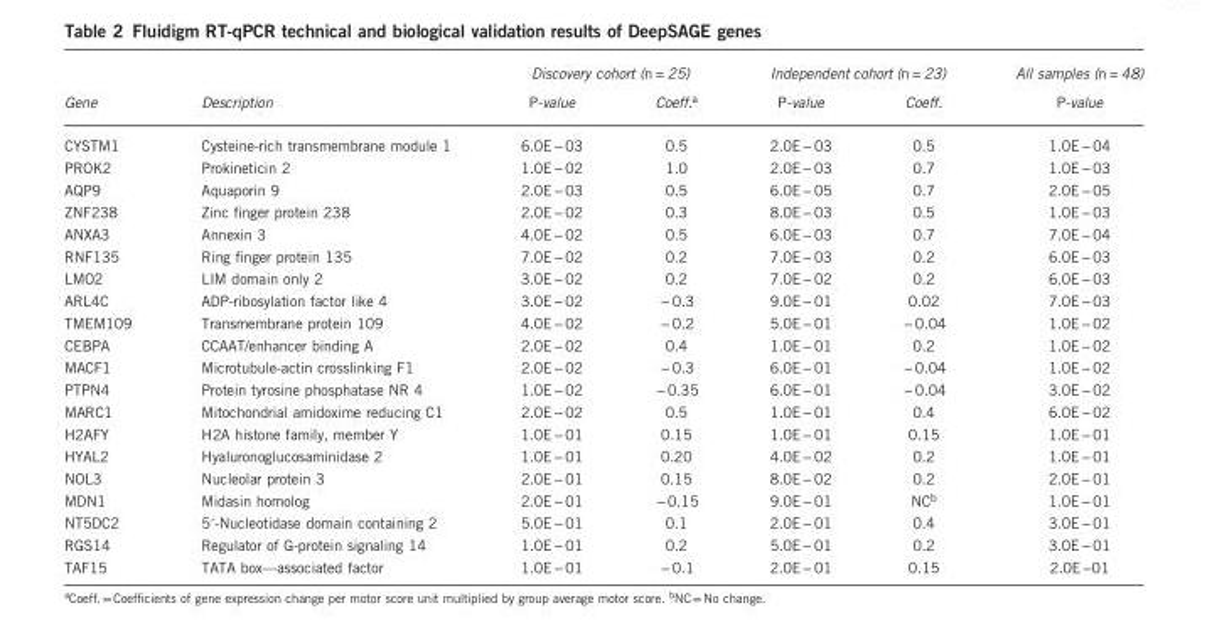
<table><thead><tr><td rowspan="2">Gene</td><td rowspan="2">Description</td><td colspan="2">Discovery cohort (n = 25)</td><td colspan="2">Independent cohort (n = 23)</td><td rowspan="2">All samples (n = 48) P-value</td></tr><tr><td>P-value</td><td>Coeff.<sup>a</sup></td><td>P-value</td><td>Coeff.</td></tr></thead><tbody><tr><td>CYSTM1</td><td>Cysteine-rich transmembrane module 1</td><td>6.0E− 03</td><td>0.5</td><td>2.0E− 03</td><td>0.5</td><td>1.0E− 04</td></tr><tr><td>PROK2</td><td>Prokineticin 2</td><td>1.0E− 02</td><td>1.0</td><td>2.0E− 03</td><td>0.7</td><td>1.0E− 03</td></tr><tr><td>AQP9</td><td>Aquaporin 9</td><td>2.0E− 03</td><td>0.5</td><td>6.0E− 05</td><td>0.7</td><td>2.0E− 05</td></tr><tr><td>ZNF238</td><td>Zinc finger protein 238</td><td>2.0E− 02</td><td>0.3</td><td>8.0E− 03</td><td>0.5</td><td>1.0E− 03</td></tr><tr><td>ANXA3</td><td>Annexin 3</td><td>4.0E− 02</td><td>0.5</td><td>6.0E− 03</td><td>0.7</td><td>7.0E− 04</td></tr><tr><td>RNF135</td><td>Ring finger protein 135</td><td>7.0E− 02</td><td>0.2</td><td>7.0E− 03</td><td>0.2</td><td>6.0E− 03</td></tr><tr><td>LMO2</td><td>LIM domain only 2</td><td>3.0E− 02</td><td>0.2</td><td>7.0E− 02</td><td>0.2</td><td>6.0E− 03</td></tr><tr><td>ARL4C</td><td>ADP-ribosylation factor like 4</td><td>3.0E− 02</td><td>− 0.3</td><td>9.0E− 01</td><td>0.02</td><td>7.0E− 03</td></tr><tr><td>TMEM109</td><td>Transmembrane protein 109</td><td>4.0E− 02</td><td>− 0.2</td><td>5.0E− 01</td><td>− 0.04</td><td>1.0E− 02</td></tr><tr><td>CEBPA</td><td>CCAAT/enhancer binding A</td><td>2.0E− 02</td><td>0.4</td><td>1.0E− 01</td><td>0.2</td><td>1.0E− 02</td></tr><tr><td>MACF1</td><td>Microtubule-actin crosslinking F1</td><td>2.0E− 02</td><td>− 0.3</td><td>6.0E− 01</td><td>− 0.04</td><td>1.0E− 02</td></tr><tr><td>PTPN4</td><td>Protein tyrosine phosphatase NR 4</td><td>1.0E − 02</td><td>− 0.35</td><td>6.0E− 01</td><td>− 0.04</td><td>3.0E− 02</td></tr><tr><td>MARC1</td><td>Mitochondrial amidoxime reducing C1</td><td>2.0E− 02</td><td>0.5</td><td>1.0E− 01</td><td>0.4</td><td>6.0E− 02</td></tr><tr><td>H2AFY</td><td>H2A histone family, member Y</td><td>1.0E− 01</td><td>0.15</td><td>1.0E− 01</td><td>0.15</td><td>1.0E− 01</td></tr><tr><td>HYAL2</td><td>Hyaluronoglucosaminidase 2</td><td>1.0E− 01</td><td>0.20</td><td>4.0E− 02</td><td>0.2</td><td>1.0E− 01</td></tr><tr><td>NOL3</td><td>Nucleolar protein 3</td><td>2.0E− 01</td><td>0.15</td><td>8.0E− 02</td><td>0.2</td><td>2.0E− 01</td></tr><tr><td>MDN1</td><td>Midasin homolog</td><td>2.0E− 01</td><td>− 0.15</td><td>9.0E− 01</td><td>NC<sup>b</sup></td><td>1.0E− 01</td></tr><tr><td>NT5DC2</td><td>5′-Nucleotidase domain containing 2</td><td>5.0E − 01</td><td>0.1</td><td>2.0E− 01</td><td>0.4</td><td>3.0E− 01</td></tr><tr><td>RGS14</td><td>Regulator of G-protein signaling 14</td><td>1.0E− 01</td><td>0.2</td><td>5.0E− 01</td><td>0.2</td><td>3.0E− 01</td></tr><tr><td>TAF15</td><td>TATA box—associated factor</td><td>1.0E− 01</td><td>− 0.1</td><td>2.0E− 01</td><td>0.15</td><td>2.0E−01</td></tr></tbody></table>